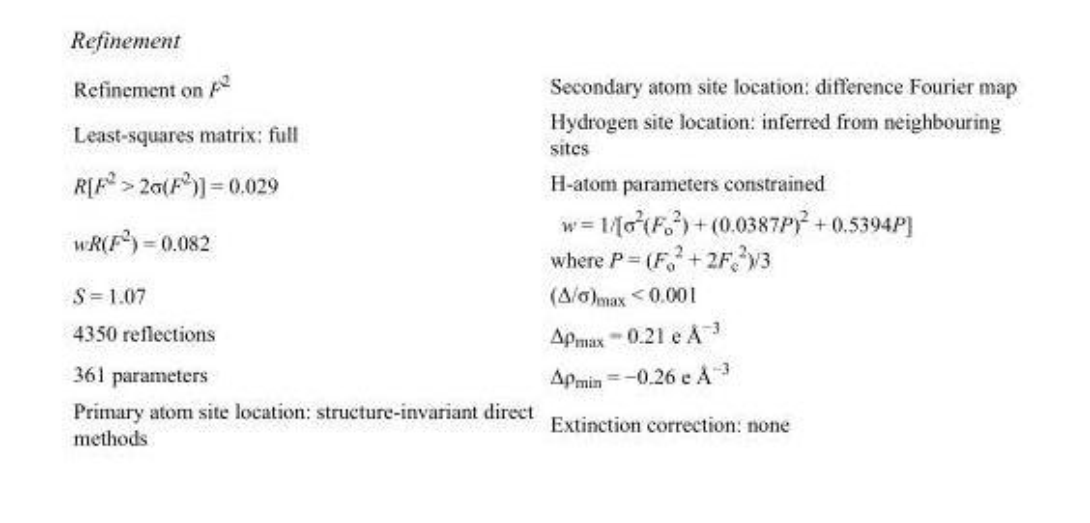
<table><tbody><tr><td>Refinement on F<sup>2</sup></td><td>Secondary atom site location: difference Fourier map</td></tr><tr><td>Least-squares matrix: full</td><td>Hydrogen site location: inferred from neighbouring sites</td></tr><tr><td>R[F<sup>2</sup> &gt; 2σ(F<sup>2</sup>)] = 0.029</td><td>H-atom parameters constrained</td></tr><tr><td>wR(F<sup>2</sup>) = 0.082</td><td>w = 1/[σ<sup>2</sup>(F<sub>o</sub> <sup>2</sup>) + (0.0387P)<sup>2</sup> + 0.5394P] where P = (F<sub>o</sub> <sup>2</sup> + 2F<sub>c</sub> <sup>2</sup>)/3</td></tr><tr><td>S = 1.07</td><td>(Δ/σ)<sub>max</sub> &lt; 0.001</td></tr><tr><td>4350 reflections</td><td>Δρ<sub>max</sub> = 0.21 e Å<sup>−3</sup></td></tr><tr><td>361 parameters</td><td>Δρ<sub>min</sub> = −0.26 e Å<sup>−3</sup></td></tr><tr><td>Primary atom site location: structure-invariant direct methods</td><td>Extinction correction: none</td></tr></tbody></table>